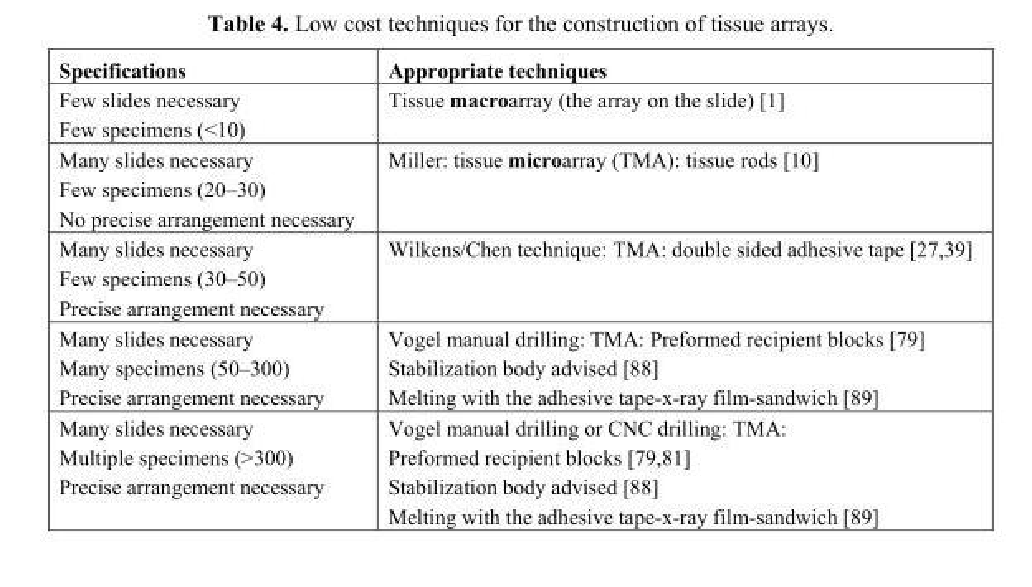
<table><thead><tr><td>Specifications</td><td>Appropriate techniques</td></tr></thead><tbody><tr><td>Few slides necessary Few specimens (&lt;10)</td><td>Tissue macroarray (the array on the slide) [1]</td></tr><tr><td>Many slides necessary Few specimens (20–30) No precise arrangement necessary</td><td>Miller: tissue microarray (TMA): tissue rods [10]</td></tr><tr><td>Many slides necessary Few specimens (30–50) Precise arrangement necessary</td><td>Wilkens/Chen technique: TMA: double sided adhesive tape [27,39]</td></tr><tr><td>Many slides necessary Many specimens (50–300) Precise arrangement necessary</td><td>Vogel manual drilling: TMA: Preformed recipient blocks [79] Stabilization body advised [88] Melting with the adhesive tape-x-ray film-sandwich [89]</td></tr><tr><td>Many slides necessary Multiple specimens (&gt;300) Precise arrangement necessary</td><td>Vogel manual drilling or CNC drilling: TMA: Preformed recipient blocks [79,81] Stabilization body advised [88] Melting with the adhesive tape-x-ray film-sandwich [89]</td></tr></tbody></table>